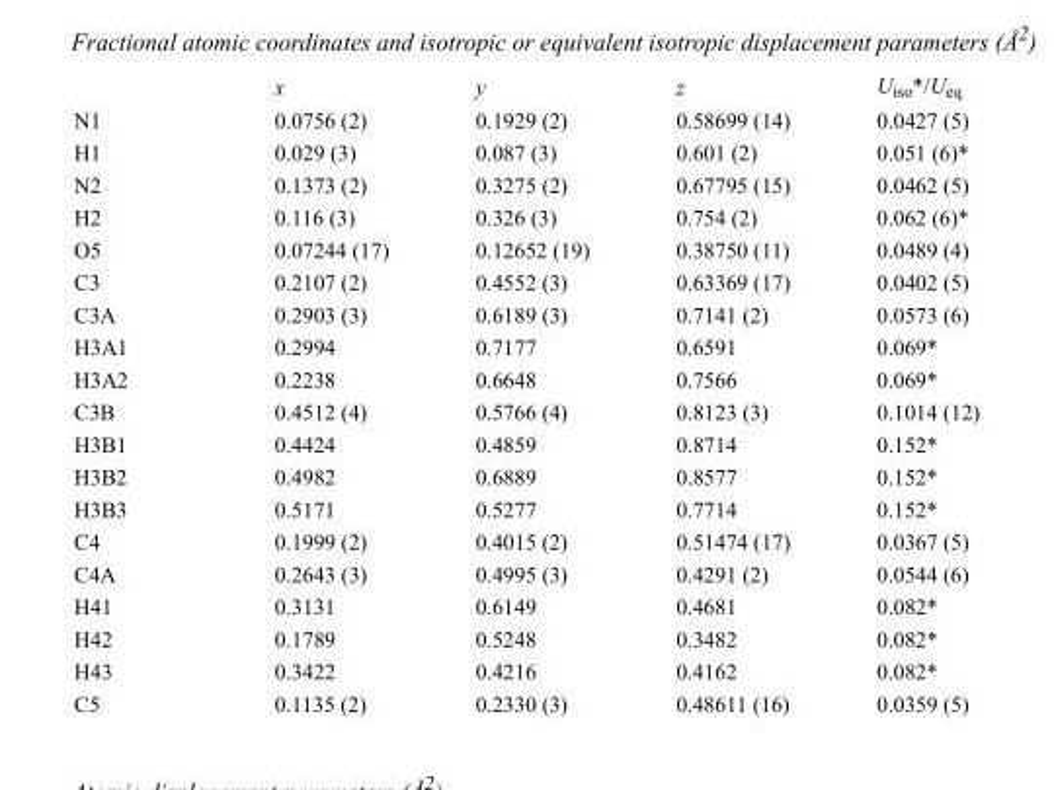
<table><thead><tr><td></td><td>x</td><td>y</td><td>z</td><td>U<sub>iso</sub>*/U<sub>eq</sub></td></tr></thead><tbody><tr><td>N1</td><td>0.0756 (2)</td><td>0.1929 (2)</td><td>0.58699 (14)</td><td>0.0427 (5)</td></tr><tr><td>H1</td><td>0.029 (3)</td><td>0.087 (3)</td><td>0.601 (2)</td><td>0.051 (6)*</td></tr><tr><td>N2</td><td>0.1373 (2)</td><td>0.3275 (2)</td><td>0.67795 (15)</td><td>0.0462 (5)</td></tr><tr><td>H2</td><td>0.116 (3)</td><td>0.326 (3)</td><td>0.754 (2)</td><td>0.062 (6)*</td></tr><tr><td>O5</td><td>0.07244 (17)</td><td>0.12652 (19)</td><td>0.38750 (11)</td><td>0.0489 (4)</td></tr><tr><td>C3</td><td>0.2107 (2)</td><td>0.4552 (3)</td><td>0.63369 (17)</td><td>0.0402 (5)</td></tr><tr><td>C3A</td><td>0.2903 (3)</td><td>0.6189 (3)</td><td>0.7141 (2)</td><td>0.0573 (6)</td></tr><tr><td>H3A1</td><td>0.2994</td><td>0.7177</td><td>0.6591</td><td>0.069*</td></tr><tr><td>H3A2</td><td>0.2238</td><td>0.6648</td><td>0.7566</td><td>0.069*</td></tr><tr><td>C3B</td><td>0.4512 (4)</td><td>0.5766 (4)</td><td>0.8123 (3)</td><td>0.1014 (12)</td></tr><tr><td>H3B1</td><td>0.4424</td><td>0.4859</td><td>0.8714</td><td>0.152*</td></tr><tr><td>H3B2</td><td>0.4982</td><td>0.6889</td><td>0.8577</td><td>0.152*</td></tr><tr><td>H3B3</td><td>0.5171</td><td>0.5277</td><td>0.7714</td><td>0.152*</td></tr><tr><td>C4</td><td>0.1999 (2)</td><td>0.4015 (2)</td><td>0.51474 (17)</td><td>0.0367 (5)</td></tr><tr><td>C4A</td><td>0.2643 (3)</td><td>0.4995 (3)</td><td>0.4291 (2)</td><td>0.0544 (6)</td></tr><tr><td>H41</td><td>0.3131</td><td>0.6149</td><td>0.4681</td><td>0.082*</td></tr><tr><td>H42</td><td>0.1789</td><td>0.5248</td><td>0.3482</td><td>0.082*</td></tr><tr><td>H43</td><td>0.3422</td><td>0.4216</td><td>0.4162</td><td>0.082*</td></tr><tr><td>C5</td><td>0.1135 (2)</td><td>0.2330 (3)</td><td>0.48611 (16)</td><td>0.0359 (5)</td></tr></tbody></table>